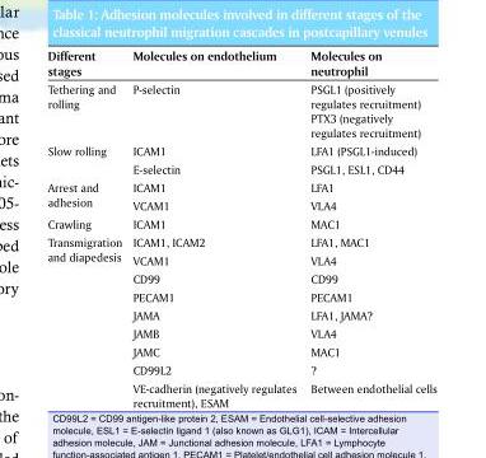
<table><thead><tr><td>Different stages</td><td>Molecules on endothelium</td><td>Molecules on neutrophil</td></tr></thead><tbody><tr><td>Tethering and rolling</td><td>P-selectin</td><td>PSGL1 (positively regulates recruitment) PTX3 (negatively regulates recruitment)</td></tr><tr><td rowspan="2">Slow rolling</td><td>ICAM1</td><td>LFA1 (PSGL1-induced)</td></tr><tr><td>E-selectin</td><td>PSGL1, ESL1, CD44</td></tr><tr><td rowspan="2">Arrest and adhesion</td><td>ICAM1</td><td>LFA1</td></tr><tr><td>VCAM1</td><td>VLA4</td></tr><tr><td>Crawling</td><td>ICAM1</td><td>MAC1</td></tr><tr><td rowspan="9">Transmigration and diapedesis</td><td>ICAM1, ICAM2</td><td>LFA1, MAC1</td></tr><tr><td>VCAM1</td><td>VLA4</td></tr><tr><td>CD99</td><td>CD99</td></tr><tr><td>PECAM1</td><td>PECAM1</td></tr><tr><td>JAMA</td><td>LFA1, JAMA?</td></tr><tr><td>JAMB</td><td>VLA4</td></tr><tr><td>JAMC</td><td>MAC1</td></tr><tr><td>CD99L2</td><td>?</td></tr><tr><td>VE-cadherin (negatively regulates recruitment), ESAM</td><td>Between endothelial cells</td></tr></tbody></table>